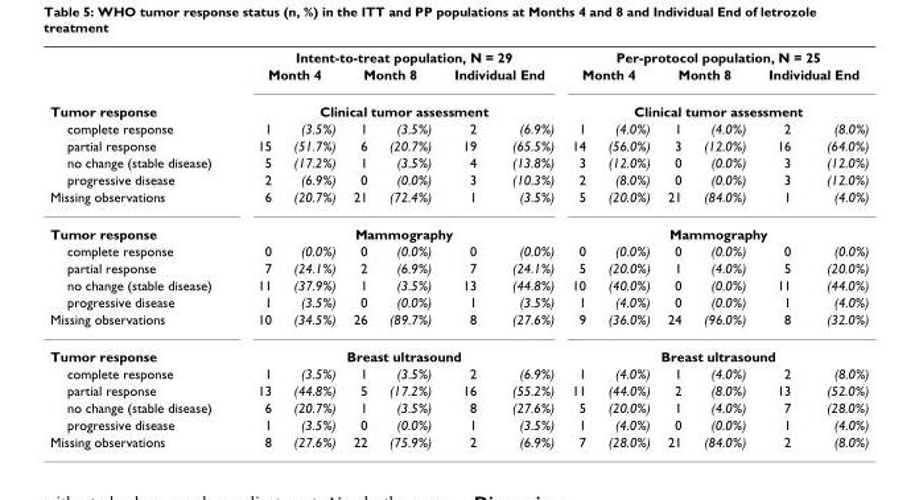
<table><thead><tr><td rowspan="4">Tumor response complete response</td><td colspan="6">Intent-to-treat population, N = 29</td><td colspan="6">Per-protocol population, N = 25</td></tr><tr><td colspan="2">Month 4</td><td colspan="2">Month 8</td><td colspan="2">Individual End</td><td colspan="2">Month 4</td><td colspan="2">Month 8</td><td colspan="2">Individual End</td></tr><tr><td colspan="6">Clinical tumor assessment</td><td colspan="6">Clinical tumor assessment</td></tr><tr><td>1</td><td>(3.5%)</td><td>1</td><td>(3.5%)</td><td>2</td><td>(6.9%)</td><td>1</td><td>(4.0%)</td><td>1</td><td>(4.0%)</td><td>2</td><td>(8.0%)</td></tr></thead><tbody><tr><td>partial response</td><td>15</td><td>(51.7%)</td><td>6</td><td>(20.7%)</td><td>19</td><td>(65.5%)</td><td>14</td><td>(56.0%)</td><td>3</td><td>(12.0%)</td><td>16</td><td>(64.0%)</td></tr><tr><td>no change (stable disease)</td><td>5</td><td>(17.2%)</td><td>1</td><td>(3.5%)</td><td>4</td><td>(13.8%)</td><td>3</td><td>(12.0%)</td><td>0</td><td>(0.0%)</td><td>3</td><td>(12.0%)</td></tr><tr><td>progressive disease</td><td>2</td><td>(6.9%)</td><td>0</td><td>(0.0%)</td><td>3</td><td>(10.3%)</td><td>2</td><td>(8.0%)</td><td>0</td><td>(0.0%)</td><td>3</td><td>(12.0%)</td></tr><tr><td>Missing observations</td><td>6</td><td>(20.7%)</td><td>21</td><td>(72.4%)</td><td>1</td><td>(3.5%)</td><td>5</td><td>(20.0%)</td><td>21</td><td>(84.0%)</td><td>1</td><td>(4.0%)</td></tr><tr><td>Tumor response</td><td colspan="6">Mammography</td><td colspan="6">Mammography</td></tr><tr><td>complete response</td><td>0</td><td>(0.0%)</td><td>0</td><td>(0.0%)</td><td>0</td><td>(0.0%)</td><td>0</td><td>(0.0%)</td><td>0</td><td>(0.0%)</td><td>0</td><td>(0.0%)</td></tr><tr><td>partial response</td><td>7</td><td>(24.1%)</td><td>2</td><td>(6.9%)</td><td>7</td><td>(24.1%)</td><td>5</td><td>(20.0%)</td><td>1</td><td>(4.0%)</td><td>5</td><td>(20.0%)</td></tr><tr><td>no change (stable disease)</td><td>11</td><td>(37.9%)</td><td>1</td><td>(3.5%)</td><td>13</td><td>(44.8%)</td><td>10</td><td>(40.0%)</td><td>0</td><td>(0.0%)</td><td>11</td><td>(44.0%)</td></tr><tr><td>progressive disease</td><td>1</td><td>(3.5%)</td><td>0</td><td>(0.0%)</td><td>1</td><td>(3.5%)</td><td>1</td><td>(4.0%)</td><td>0</td><td>(0.0%)</td><td>1</td><td>(4.0%)</td></tr><tr><td>Missing observations</td><td>10</td><td>(34.5%)</td><td>26</td><td>(89.7%)</td><td>8</td><td>(27.6%)</td><td>9</td><td>(36.0%)</td><td>24</td><td>(96.0%)</td><td>8</td><td>(32.0%)</td></tr><tr><td>Tumor response</td><td colspan="6">Breast ultrasound</td><td colspan="6">Breast ultrasound</td></tr><tr><td>complete response</td><td>1</td><td>(3.5%)</td><td>1</td><td>(3.5%)</td><td>2</td><td>(6.9%)</td><td>1</td><td>(4.0%)</td><td>1</td><td>(4.0%)</td><td>2</td><td>(8.0%)</td></tr><tr><td>partial response</td><td>13</td><td>(44.8%)</td><td>5</td><td>(17.2%)</td><td>16</td><td>(55.2%)</td><td>11</td><td>(44.0%)</td><td>2</td><td>(8.0%)</td><td>13</td><td>(52.0%)</td></tr><tr><td>no change (stable disease)</td><td>6</td><td>(20.7%)</td><td>1</td><td>(3.5%)</td><td>8</td><td>(27.6%)</td><td>5</td><td>(20.0%)</td><td>1</td><td>(4.0%)</td><td>7</td><td>(28.0%)</td></tr><tr><td>progressive disease</td><td>1</td><td>(3.5%)</td><td>0</td><td>(0.0%)</td><td>1</td><td>(3.5%)</td><td>1</td><td>(4.0%)</td><td>0</td><td>(0.0%)</td><td>1</td><td>(4.0%)</td></tr><tr><td>Missing observations</td><td>8</td><td>(27.6%)</td><td>22</td><td>(75.9%)</td><td>2</td><td>(6.9%)</td><td>7</td><td>(28.0%)</td><td>21</td><td>(84.0%)</td><td>2</td><td>(8.0%)</td></tr></tbody></table>